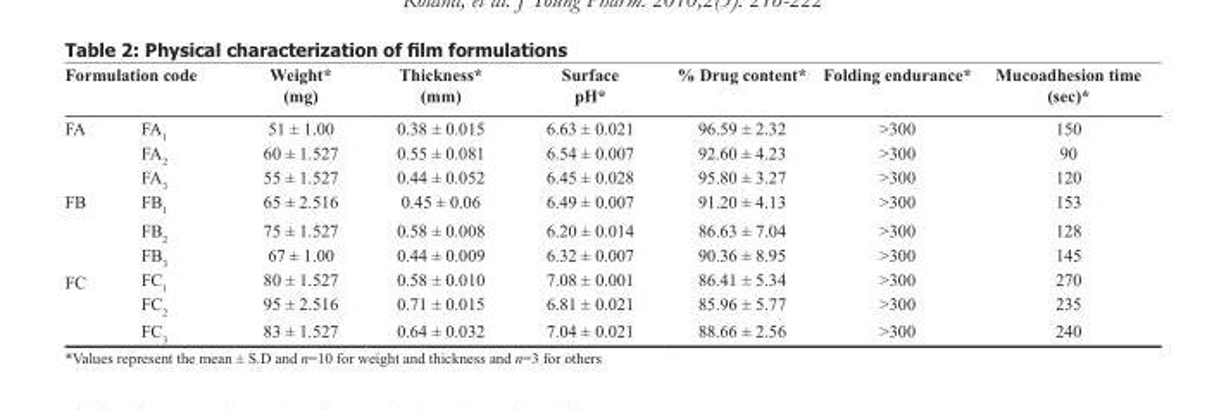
<table><thead><tr><td colspan="2">Formulation code</td><td rowspan="2">Weight* (mg) 51 ± 1.00</td><td rowspan="2">Thickness* (mm) 0.38 ± 0.015</td><td rowspan="2">Surface pH* 6.63 ± 0.021</td><td rowspan="2">% Drug content* 96.59 ± 2.32</td><td rowspan="2">Folding endurance* &gt;300</td><td rowspan="2">Mucoadhesion time (sec)* 150</td></tr><tr><td>FA</td><td>FA<sub>1</sub></td></tr></thead><tbody><tr><td></td><td>FA<sub>2</sub></td><td>60 ± 1.527</td><td>0.55 ± 0.081</td><td>6.54 ± 0.007</td><td>92.60 ± 4.23</td><td>&gt;300</td><td>90</td></tr><tr><td></td><td>FA<sub>3</sub></td><td>55 ± 1.527</td><td>0.44 ± 0.052</td><td>6.45 ± 0.028</td><td>95.80 ± 3.27</td><td>&gt;300</td><td>120</td></tr><tr><td rowspan="3">FB</td><td>FB<sub>1</sub></td><td>65 ± 2.516</td><td>0.45 ± 0.06</td><td>6.49 ± 0.007</td><td>91.20 ± 4.13</td><td>&gt;300</td><td>153</td></tr><tr><td>FB<sub>2</sub></td><td>75 ± 1.527</td><td>0.58 ± 0.008</td><td>6.20 ± 0.014</td><td>86.63 ± 7.04</td><td>&gt;300</td><td>128</td></tr><tr><td>FB<sub>3</sub></td><td>67 ± 1.00</td><td>0.44 ± 0.009</td><td>6.32 ± 0.007</td><td>90.36 ± 8.95</td><td>&gt;300</td><td>145</td></tr><tr><td rowspan="3">FC</td><td>FC<sub>1</sub></td><td>80 ± 1.527</td><td>0.58 ± 0.010</td><td>7.08 ± 0.001</td><td>86.41 ± 5.34</td><td>&gt;300</td><td>270</td></tr><tr><td>FC<sub>2</sub></td><td>95 ± 2.516</td><td>0.71 ± 0.015</td><td>6.81 ± 0.021</td><td>85.96 ± 5.77</td><td>&gt;300</td><td>235</td></tr><tr><td>FC<sub>3</sub></td><td>83 ± 1.527</td><td>0.64 ± 0.032</td><td>7.04 ± 0.021</td><td>88.66 ± 2.56</td><td>&gt;300</td><td>240</td></tr></tbody></table>